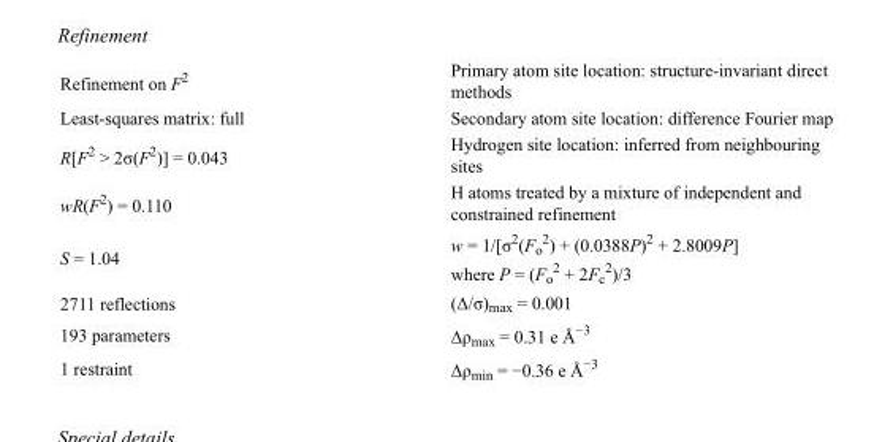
<table><tbody><tr><td>Refinement on F<sup>2</sup></td><td>Primary atom site location: structure-invariant direct methods</td></tr><tr><td>Least-squares matrix: full</td><td>Secondary atom site location: difference Fourier map</td></tr><tr><td>R[F<sup>2</sup> &gt; 2σ(F<sup>2</sup>)] = 0.043</td><td>Hydrogen site location: inferred from neighbouring sites</td></tr><tr><td>wR(F<sup>2</sup>) = 0.110</td><td>H atoms treated by a mixture of independent and constrained refinement</td></tr><tr><td>S = 1.04</td><td>w = 1/[σ<sup>2</sup>(F<sub>o</sub> <sup>2</sup>) + (0.0388P)<sup>2</sup> + 2.8009P] where P = (F<sub>o</sub> <sup>2</sup> + 2F<sub>c</sub> <sup>2</sup>)/3</td></tr><tr><td>2711 reflections</td><td>(Δ/σ)<sub>max</sub> = 0.001</td></tr><tr><td>193 parameters</td><td>Δρ<sub>max</sub> = 0.31 e Å<sup>−3</sup></td></tr><tr><td>1 restraint</td><td>Δρ<sub>min</sub> = −0.36 e Å<sup>−3</sup></td></tr></tbody></table>